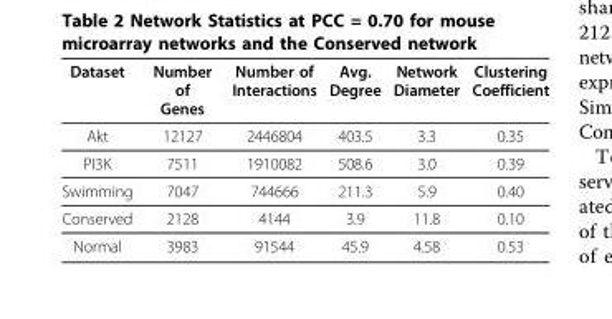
<table><thead><tr><td>Dataset</td><td>Number of Genes</td><td>Number of Interactions</td><td>Avg. Degree</td><td>Network Diameter</td><td>Clustering Coefficient</td></tr></thead><tbody><tr><td>Akt</td><td>12127</td><td>2446804</td><td>403.5</td><td>3.3</td><td>0.35</td></tr><tr><td>PI3K</td><td>7511</td><td>1910082</td><td>508.6</td><td>3.0</td><td>0.39</td></tr><tr><td>Swimming</td><td>7047</td><td>744666</td><td>211.3</td><td>5.9</td><td>0.40</td></tr><tr><td>Conserved</td><td>2128</td><td>4144</td><td>3.9</td><td>11.8</td><td>0.10</td></tr><tr><td>Normal</td><td>3983</td><td>91544</td><td>45.9</td><td>4.58</td><td>0.53</td></tr></tbody></table>